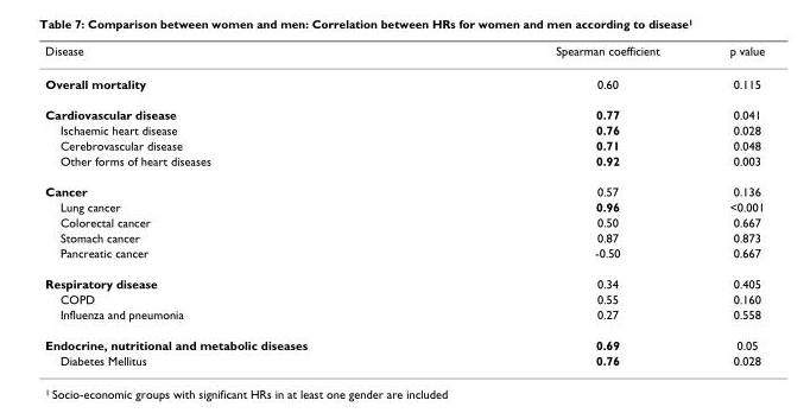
<table><thead><tr><td>Disease</td><td>Spearman coefficient</td><td>p value</td></tr></thead><tbody><tr><td>Overall mortality</td><td>0.60</td><td>0.115</td></tr><tr><td>Cardiovascular disease</td><td>0.77</td><td>0.041</td></tr><tr><td>Ischaemic heart disease</td><td>0.76</td><td>0.028</td></tr><tr><td>Cerebrovascular disease</td><td>0.71</td><td>0.048</td></tr><tr><td>Other forms of heart diseases</td><td>0.92</td><td>0.003</td></tr><tr><td>Cancer</td><td>0.57</td><td>0.136</td></tr><tr><td>Lung cancer</td><td>0.96</td><td>&lt;0.001</td></tr><tr><td>Colorectal cancer</td><td>0.50</td><td>0.667</td></tr><tr><td>Stomach cancer</td><td>0.87</td><td>0.873</td></tr><tr><td>Pancreatic cancer</td><td>-0.50</td><td>0.667</td></tr><tr><td>Respiratory disease</td><td>0.34</td><td>0.405</td></tr><tr><td>COPD</td><td>0.55</td><td>0.160</td></tr><tr><td>Influenza and pneumonia</td><td>0.27</td><td>0.558</td></tr><tr><td>Endocrine, nutritional and metabolic diseases</td><td>0.69</td><td>0.05</td></tr><tr><td>Diabetes Mellitus</td><td>0.76</td><td>0.028</td></tr></tbody></table>